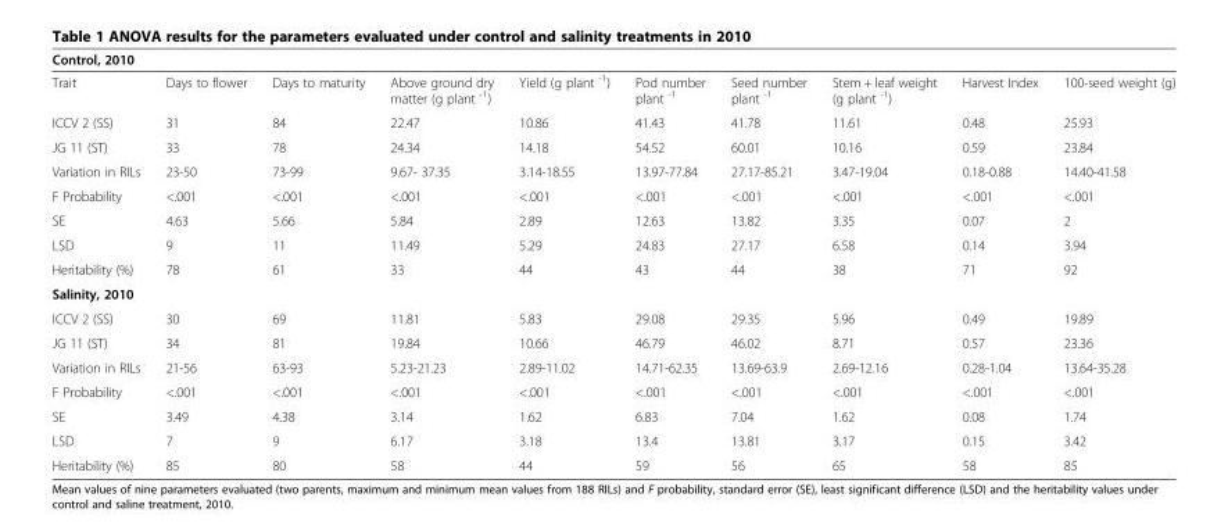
<table><thead><tr><td colspan="10">Control, 2010</td></tr><tr><td>Trait</td><td>Days to flower</td><td>Days to maturity</td><td>Above ground dry matter (g plant <sup>-1</sup>)</td><td>Yield (g plant <sup>-1</sup>)</td><td>Pod number plant <sup>-1</sup></td><td>Seed number plant <sup>-1</sup></td><td>Stem + leaf weight (g plant <sup>-1</sup>)</td><td>Harvest Index</td><td>100-seed weight (g)</td></tr></thead><tbody><tr><td>ICCV 2 (SS)</td><td>31</td><td>84</td><td>22.47</td><td>10.86</td><td>41.43</td><td>41.78</td><td>11.61</td><td>0.48</td><td>25.93</td></tr><tr><td>JG 11 (ST)</td><td>33</td><td>78</td><td>24.34</td><td>14.18</td><td>54.52</td><td>60.01</td><td>10.16</td><td>0.59</td><td>23.84</td></tr><tr><td>Variation in RILs</td><td>23-50</td><td>73-99</td><td>9.67- 37.35</td><td>3.14-18.55</td><td>13.97-77.84</td><td>27.17-85.21</td><td>3.47-19.04</td><td>0.18-0.88</td><td>14.40-41.58</td></tr><tr><td>F Probability</td><td>&lt;.001</td><td>&lt;.001</td><td>&lt;.001</td><td>&lt;.001</td><td>&lt;.001</td><td>&lt;.001</td><td>&lt;.001</td><td>&lt;.001</td><td>&lt;.001</td></tr><tr><td>SE</td><td>4.63</td><td>5.66</td><td>5.84</td><td>2.89</td><td>12.63</td><td>13.82</td><td>3.35</td><td>0.07</td><td>2</td></tr><tr><td>LSD</td><td>9</td><td>11</td><td>11.49</td><td>5.29</td><td>24.83</td><td>27.17</td><td>6.58</td><td>0.14</td><td>3.94</td></tr><tr><td>Heritability (%)</td><td>78</td><td>61</td><td>33</td><td>44</td><td>43</td><td>44</td><td>38</td><td>71</td><td>92</td></tr><tr><td colspan="10">Salinity, 2010</td></tr><tr><td>ICCV 2 (SS)</td><td>30</td><td>69</td><td>11.81</td><td>5.83</td><td>29.08</td><td>29.35</td><td>5.96</td><td>0.49</td><td>19.89</td></tr><tr><td>JG 11 (ST)</td><td>34</td><td>81</td><td>19.84</td><td>10.66</td><td>46.79</td><td>46.02</td><td>8.71</td><td>0.57</td><td>23.36</td></tr><tr><td>Variation in RILs</td><td>21-56</td><td>63-93</td><td>5.23-21.23</td><td>2.89-11.02</td><td>14.71-62.35</td><td>13.69-63.9</td><td>2.69-12.16</td><td>0.28-1.04</td><td>13.64-35.28</td></tr><tr><td>F Probability</td><td>&lt;.001</td><td>&lt;.001</td><td>&lt;.001</td><td>&lt;.001</td><td>&lt;.001</td><td>&lt;.001</td><td>&lt;.001</td><td>&lt;.001</td><td>&lt;.001</td></tr><tr><td>SE</td><td>3.49</td><td>4.38</td><td>3.14</td><td>1.62</td><td>6.83</td><td>7.04</td><td>1.62</td><td>0.08</td><td>1.74</td></tr><tr><td>LSD</td><td>7</td><td>9</td><td>6.17</td><td>3.18</td><td>13.4</td><td>13.81</td><td>3.17</td><td>0.15</td><td>3.42</td></tr><tr><td>Heritability (%)</td><td>85</td><td>80</td><td>58</td><td>44</td><td>59</td><td>56</td><td>65</td><td>58</td><td>85</td></tr></tbody></table>